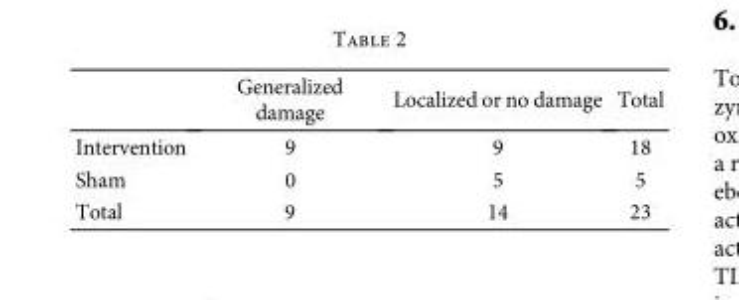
<table><thead><tr><td></td><td>Generalized damage</td><td>Localized or no damage</td><td>Total</td></tr></thead><tbody><tr><td>Intervention</td><td>9</td><td>9</td><td>18</td></tr><tr><td>Sham</td><td>0</td><td>5</td><td>5</td></tr><tr><td>Total</td><td>9</td><td>14</td><td>23</td></tr></tbody></table>